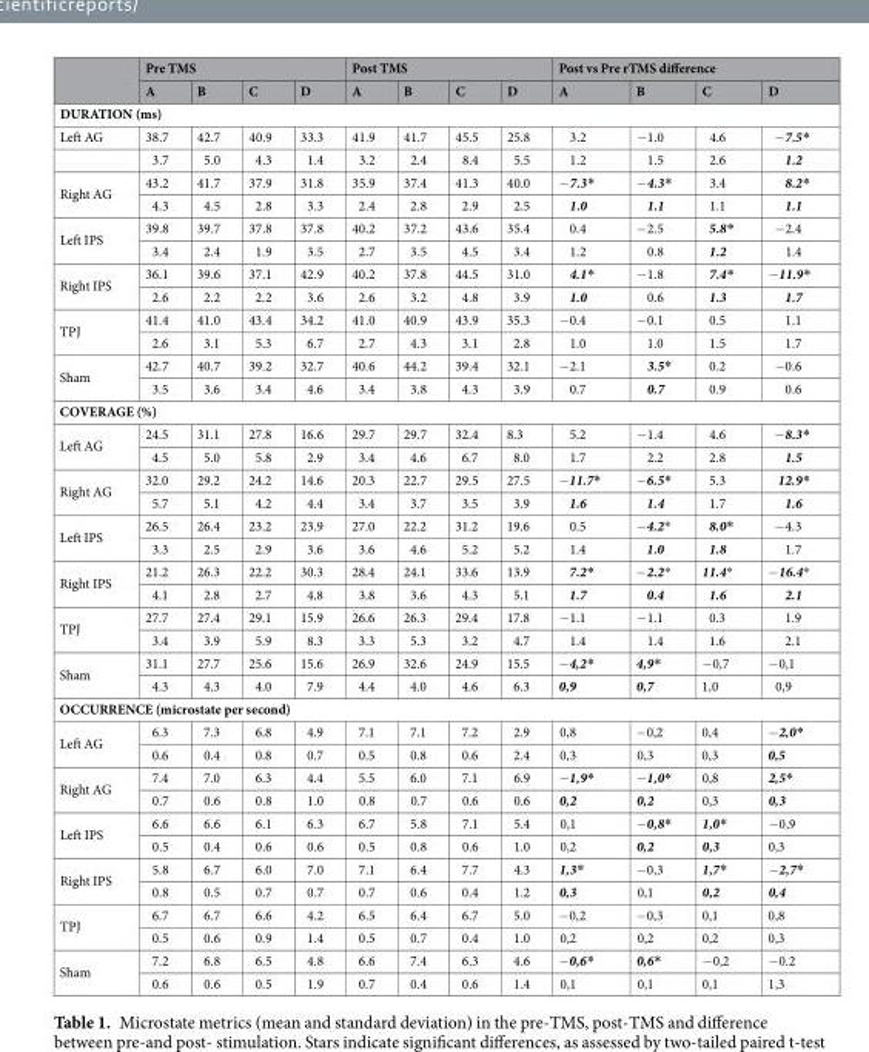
<table><thead><tr><td rowspan="2"></td><td colspan="4">Pre TMS</td><td colspan="4">Post TMS</td><td colspan="4">Post vs Pre rTMS difference</td></tr><tr><td>A</td><td>B</td><td>C</td><td>D</td><td>A</td><td>B</td><td>C</td><td>D</td><td>A</td><td>B</td><td>C</td><td>D</td></tr></thead><tbody><tr><td colspan="13">DURATION (ms)</td></tr><tr><td rowspan="2">Left AG</td><td>38.7</td><td>42.7</td><td>40.9</td><td>33.3</td><td>41.9</td><td>41.7</td><td>45.5</td><td>25.8</td><td>3.2</td><td>−1.0</td><td>4.6</td><td>−7.5*</td></tr><tr><td>3.7</td><td>5.0</td><td>4.3</td><td>1.4</td><td>3.2</td><td>2.4</td><td>8.4</td><td>5.5</td><td>1.2</td><td>1.5</td><td>2.6</td><td>1.2</td></tr><tr><td rowspan="2">Right AG</td><td>43.2</td><td>41.7</td><td>37.9</td><td>31.8</td><td>35.9</td><td>37.4</td><td>41.3</td><td>40.0</td><td>−7.3*</td><td>−4.3*</td><td>3.4</td><td>8.2*</td></tr><tr><td>4.3</td><td>4.5</td><td>2.8</td><td>3.3</td><td>2.4</td><td>2.8</td><td>2.9</td><td>2.5</td><td>1.0</td><td>1.1</td><td>1.1</td><td>1.1</td></tr><tr><td rowspan="2">Left IPS</td><td>39.8</td><td>39.7</td><td>37.8</td><td>37.8</td><td>40.2</td><td>37.2</td><td>43.6</td><td>35.4</td><td>0.4</td><td>−2.5</td><td>5.8*</td><td>−2.4</td></tr><tr><td>3.4</td><td>2.4</td><td>1.9</td><td>3.5</td><td>2.7</td><td>3.5</td><td>4.5</td><td>3.4</td><td>1.2</td><td>0.8</td><td>1.2</td><td>1.4</td></tr><tr><td rowspan="2">Right IPS</td><td>36.1</td><td>39.6</td><td>37.1</td><td>42.9</td><td>40.2</td><td>37.8</td><td>44.5</td><td>31.0</td><td>4.1*</td><td>−1.8</td><td>7.4*</td><td>−11.9*</td></tr><tr><td>2.6</td><td>2.2</td><td>2.2</td><td>3.6</td><td>2.6</td><td>3.2</td><td>4.8</td><td>3.9</td><td>1.0</td><td>0.6</td><td>1.3</td><td>1.7</td></tr><tr><td rowspan="2">TPJ</td><td>41.4</td><td>41.0</td><td>43.4</td><td>34.2</td><td>41.0</td><td>40.9</td><td>43.9</td><td>35.3</td><td>−0.4</td><td>−0.1</td><td>0.5</td><td>1.1</td></tr><tr><td>2.6</td><td>3.1</td><td>5.3</td><td>6.7</td><td>2.7</td><td>4.3</td><td>3.1</td><td>2.8</td><td>1.0</td><td>1.0</td><td>1.5</td><td>1.7</td></tr><tr><td rowspan="2">Sham</td><td>42.7</td><td>40.7</td><td>39.2</td><td>32.7</td><td>40.6</td><td>44.2</td><td>39.4</td><td>32.1</td><td>−2.1</td><td>3.5*</td><td>0.2</td><td>−0.6</td></tr><tr><td>3.5</td><td>3.6</td><td>3.4</td><td>4.6</td><td>3.4</td><td>3.8</td><td>4.3</td><td>3.9</td><td>0.7</td><td>0.7</td><td>0.9</td><td>0.6</td></tr><tr><td colspan="13">COVERAGE (%)</td></tr><tr><td rowspan="2">Left AG</td><td>24.5</td><td>31.1</td><td>27.8</td><td>16.6</td><td>29.7</td><td>29.7</td><td>32.4</td><td>8.3</td><td>5.2</td><td>−1.4</td><td>4.6</td><td>−8.3*</td></tr><tr><td>4.5</td><td>5.0</td><td>5.8</td><td>2.9</td><td>3.4</td><td>4.6</td><td>6.7</td><td>8.0</td><td>1.7</td><td>2.2</td><td>2.8</td><td>1.5</td></tr><tr><td rowspan="2">Right AG</td><td>32.0</td><td>29.2</td><td>24.2</td><td>14.6</td><td>20.3</td><td>22.7</td><td>29.5</td><td>27.5</td><td>−11.7*</td><td>−6.5*</td><td>5.3</td><td>12.9*</td></tr><tr><td>5.7</td><td>5.1</td><td>4.2</td><td>4.4</td><td>3.4</td><td>3.7</td><td>3.5</td><td>3.9</td><td>1.6</td><td>1.4</td><td>1.7</td><td>1.6</td></tr><tr><td rowspan="2">Left IPS</td><td>26.5</td><td>26.4</td><td>23.2</td><td>23.9</td><td>27.0</td><td>22.2</td><td>31.2</td><td>19.6</td><td>0.5</td><td>−4.2*</td><td>8.0*</td><td>−4.3</td></tr><tr><td>3.3</td><td>2.5</td><td>2.9</td><td>3.6</td><td>3.6</td><td>4.6</td><td>5.2</td><td>5.2</td><td>1.4</td><td>1.0</td><td>1.8</td><td>1.7</td></tr><tr><td rowspan="2">Right IPS</td><td>21.2</td><td>26.3</td><td>22.2</td><td>30.3</td><td>28.4</td><td>24.1</td><td>33.6</td><td>13.9</td><td>7.2*</td><td>−2.2*</td><td>11.4*</td><td>−16.4*</td></tr><tr><td>4.1</td><td>2.8</td><td>2.7</td><td>4.8</td><td>3.8</td><td>3.6</td><td>4.3</td><td>5.1</td><td>1.7</td><td>0.4</td><td>1.6</td><td>2.1</td></tr><tr><td rowspan="2">TPJ</td><td>27.7</td><td>27.4</td><td>29.1</td><td>15.9</td><td>26.6</td><td>26.3</td><td>29.4</td><td>17.8</td><td>−1.1</td><td>−1.1</td><td>0.3</td><td>1.9</td></tr><tr><td>3.4</td><td>3.9</td><td>5.9</td><td>8.3</td><td>3.3</td><td>5.3</td><td>3.2</td><td>4.7</td><td>1.4</td><td>1.4</td><td>1.6</td><td>2.1</td></tr><tr><td rowspan="2">Sham</td><td>31.1</td><td>27.7</td><td>25.6</td><td>15.6</td><td>26.9</td><td>32.6</td><td>24.9</td><td>15.5</td><td>−4,2*</td><td>4,9*</td><td>−0,7</td><td>−0,1</td></tr><tr><td>4.3</td><td>4.3</td><td>4.0</td><td>7.9</td><td>4.4</td><td>4.0</td><td>4.6</td><td>6.3</td><td>0,9</td><td>0,7</td><td>1,0</td><td>0,9</td></tr><tr><td colspan="13">OCCURRENCE (microstate per second)</td></tr><tr><td rowspan="2">Left AG</td><td>6.3</td><td>7.3</td><td>6.8</td><td>4.9</td><td>7.1</td><td>7.1</td><td>7.2</td><td>2.9</td><td>0,8</td><td>−0,2</td><td>0,4</td><td>−2,0*</td></tr><tr><td>0.6</td><td>0.4</td><td>0.8</td><td>0.7</td><td>0.5</td><td>0.8</td><td>0.6</td><td>2.4</td><td>0,3</td><td>0,3</td><td>0,3</td><td>0,5</td></tr><tr><td rowspan="2">Right AG</td><td>7.4</td><td>7.0</td><td>6.3</td><td>4.4</td><td>5.5</td><td>6.0</td><td>7.1</td><td>6.9</td><td>−1,9*</td><td>−1,0*</td><td>0,8</td><td>2,5*</td></tr><tr><td>0.7</td><td>0.6</td><td>0.8</td><td>1.0</td><td>0.8</td><td>0.7</td><td>0.6</td><td>0.6</td><td>0,2</td><td>0,2</td><td>0,3</td><td>0,3</td></tr><tr><td rowspan="2">Left IPS</td><td>6.6</td><td>6.6</td><td>6.1</td><td>6.3</td><td>6.7</td><td>5.8</td><td>7.1</td><td>5.4</td><td>0,1</td><td>−0,8*</td><td>1,0*</td><td>−0,9</td></tr><tr><td>0.5</td><td>0.4</td><td>0.6</td><td>0.6</td><td>0.5</td><td>0.8</td><td>0.6</td><td>1.0</td><td>0,2</td><td>0,2</td><td>0,3</td><td>0,3</td></tr><tr><td rowspan="2">Right IPS</td><td>5.8</td><td>6.7</td><td>6.0</td><td>7.0</td><td>7.1</td><td>6.4</td><td>7.7</td><td>4.3</td><td>1,3*</td><td>−0,3</td><td>1,7*</td><td>−2,7*</td></tr><tr><td>0.8</td><td>0.5</td><td>0.7</td><td>0.7</td><td>0.7</td><td>0.6</td><td>0.4</td><td>1.2</td><td>0,3</td><td>0,1</td><td>0,2</td><td>0,4</td></tr><tr><td rowspan="2">TPJ</td><td>6.7</td><td>6.7</td><td>6.6</td><td>4.2</td><td>6.5</td><td>6.4</td><td>6.7</td><td>5.0</td><td>−0,2</td><td>−0,3</td><td>0,1</td><td>0,8</td></tr><tr><td>0.5</td><td>0.6</td><td>0.9</td><td>1.4</td><td>0.5</td><td>0.7</td><td>0.4</td><td>1.0</td><td>0,2</td><td>0,2</td><td>0,2</td><td>0,3</td></tr><tr><td rowspan="2">Sham</td><td>7.2</td><td>6.8</td><td>6.5</td><td>4.8</td><td>6.6</td><td>7.4</td><td>6.3</td><td>4.6</td><td>−0,6*</td><td>0,6*</td><td>−0,2</td><td>−0.2</td></tr><tr><td>0.6</td><td>0.6</td><td>0.5</td><td>1.9</td><td>0.7</td><td>0.4</td><td>0.6</td><td>1.4</td><td>0,1</td><td>0,1</td><td>0,1</td><td>1,3</td></tr></tbody></table>